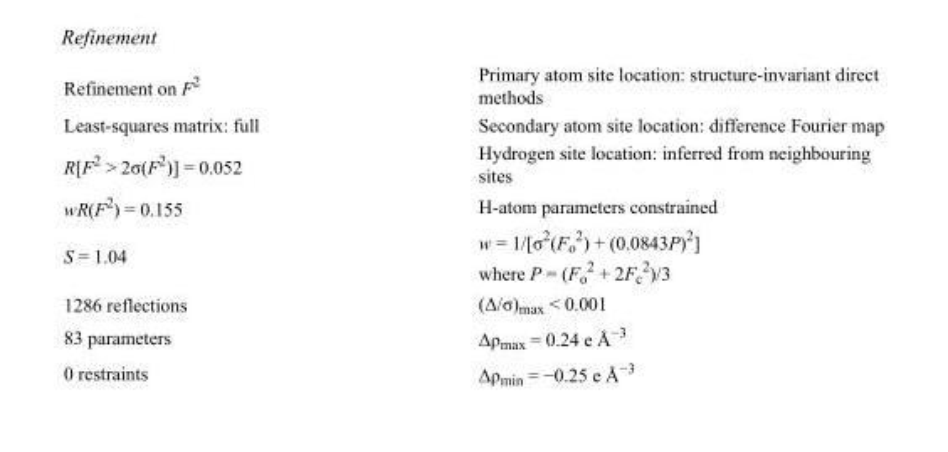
<table><tbody><tr><td>Refinement on F<sup>2</sup></td><td>Primary atom site location: structure-invariant direct methods</td></tr><tr><td>Least-squares matrix: full</td><td>Secondary atom site location: difference Fourier map</td></tr><tr><td>R[F<sup>2</sup> &gt; 2σ(F<sup>2</sup>)] = 0.052</td><td>Hydrogen site location: inferred from neighbouring sites</td></tr><tr><td>wR(F<sup>2</sup>) = 0.155</td><td>H-atom parameters constrained</td></tr><tr><td>S = 1.04</td><td>w = 1/[σ<sup>2</sup>(F<sub>o</sub> <sup>2</sup>) + (0.0843P)<sup>2</sup>] where P = (F<sub>o</sub> <sup>2</sup> + 2F<sub>c</sub> <sup>2</sup>)/3</td></tr><tr><td>1286 reflections</td><td>(Δ/σ)<sub>max</sub> &lt; 0.001</td></tr><tr><td>83 parameters</td><td>Δρ<sub>max</sub> = 0.24 e Å<sup>−3</sup></td></tr><tr><td>0 restraints</td><td>Δρ<sub>min</sub> = −0.25 e Å<sup>−3</sup></td></tr></tbody></table>